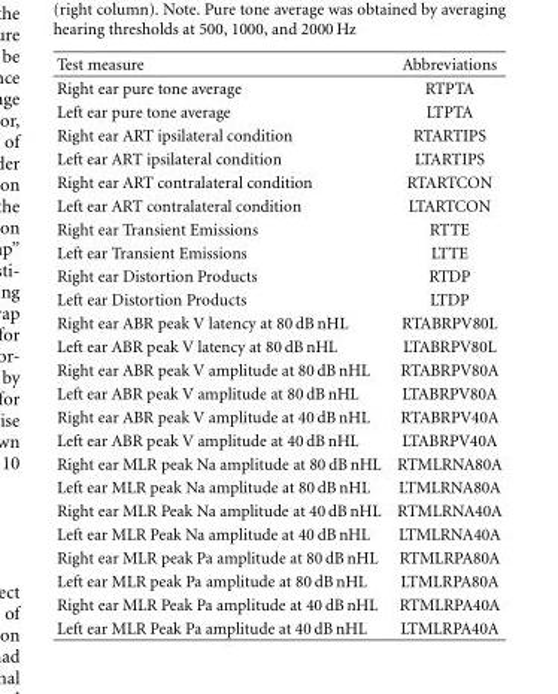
<table><thead><tr><td>Test measure</td><td>Abbreviations</td></tr></thead><tbody><tr><td>Right ear pure tone average</td><td>RTPTA</td></tr><tr><td>Left ear pure tone average</td><td>LTPTA</td></tr><tr><td>Right ear ART ipsilateral condition</td><td>RTARTIPS</td></tr><tr><td>Left ear ART ipsilateral condition</td><td>LTARTIPS</td></tr><tr><td>Right ear ART contralateral condition</td><td>RTARTCON</td></tr><tr><td>Left ear ART contralateral condition</td><td>LTARTCON</td></tr><tr><td>Right ear Transient Emissions</td><td>RTTE</td></tr><tr><td>Left ear Transient Emissions</td><td>LTTE</td></tr><tr><td>Right ear Distortion Products</td><td>RTDP</td></tr><tr><td>Left ear Distortion Products</td><td>LTDP</td></tr><tr><td>Right ear ABR peak V latency at 80 dB nHL</td><td>RTABRPV80L</td></tr><tr><td>Left ear ABR peak V latency at 80 dB nHL</td><td>LTABRPV80L</td></tr><tr><td>Right ear ABR peak V amplitude at 80 dB nHL</td><td>RTABRPV80A</td></tr><tr><td>Left ear ABR peak V amplitude at 80 dB nHL</td><td>LTABRPV80A</td></tr><tr><td>Right ear ABR peak V amplitude at 40 dB nHL</td><td>RTABRPV40A</td></tr><tr><td>Left ear ABR peak V amplitude at 40 dB nHL</td><td>LTABRPV40A</td></tr><tr><td>Right ear MLR peak Na amplitude at 80 dB nHL</td><td>RTMLRNA80A</td></tr><tr><td>Left ear MLR peak Na amplitude at 80 dB nHL</td><td>LTMLRNA80A</td></tr><tr><td>Right ear MLR Peak Na amplitude at 40 dB nHL</td><td>RTMLRNA40A</td></tr><tr><td>Left ear MLR Peak Na amplitude at 40 dB nHL</td><td>LTMLRNA40A</td></tr><tr><td>Right ear MLR peak Pa amplitude at 80 dB nHL</td><td>RTMLRPA80A</td></tr><tr><td>Left ear MLR peak Pa amplitude at 80 dB nHL</td><td>LTMLRPA80A</td></tr><tr><td>Right ear MLR Peak Pa amplitude at 40 dB nHL</td><td>RTMLRPA40A</td></tr><tr><td>Left ear MLR Peak Pa amplitude at 40 dB nHL</td><td>LTMLRPA40A</td></tr></tbody></table>